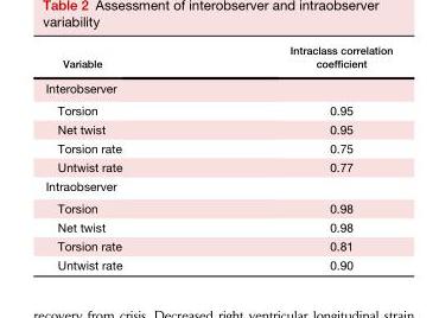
<table><thead><tr><td>Variable</td><td>Intraclass correlation coefficient</td></tr></thead><tbody><tr><td colspan="2">Interobserver</td></tr><tr><td>Torsion</td><td>0.95</td></tr><tr><td>Net twist</td><td>0.95</td></tr><tr><td>Torsion rate</td><td>0.75</td></tr><tr><td>Untwist rate</td><td>0.77</td></tr><tr><td colspan="2">Intraobserver</td></tr><tr><td>Torsion</td><td>0.98</td></tr><tr><td>Net twist</td><td>0.98</td></tr><tr><td>Torsion rate</td><td>0.81</td></tr><tr><td>Untwist rate</td><td>0.90</td></tr></tbody></table>